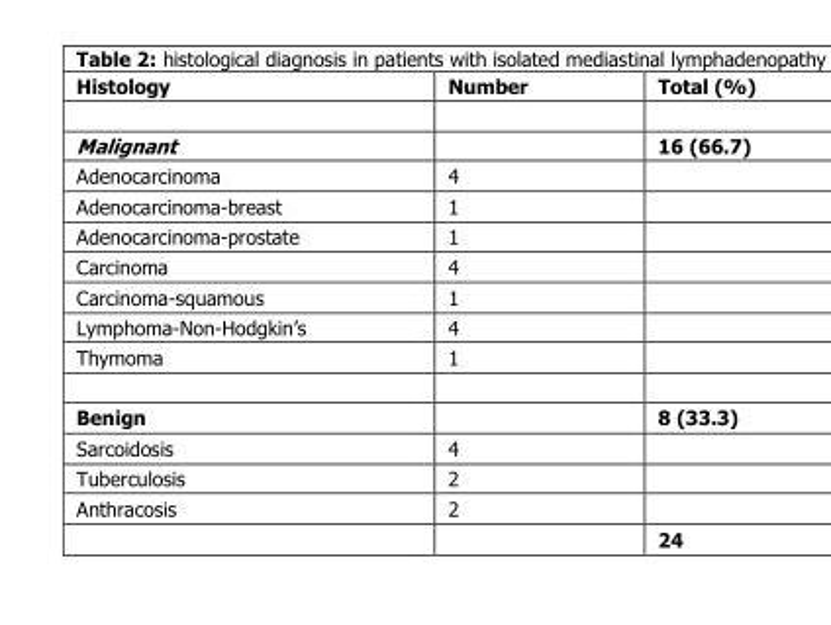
<table><thead><tr><td>Histology</td><td>Number</td><td>Total (%)</td></tr></thead><tbody><tr><td>Malignant</td><td></td><td>16 (66.7)</td></tr><tr><td>Adenocarcinoma</td><td>4</td><td></td></tr><tr><td>Adenocarcinoma-breast</td><td>1</td><td></td></tr><tr><td>Adenocarcinoma-prostate</td><td>1</td><td></td></tr><tr><td>Carcinoma</td><td>4</td><td></td></tr><tr><td>Carcinoma-squamous</td><td>1</td><td></td></tr><tr><td>Lymphoma-Non-Hodgkin’s</td><td>4</td><td></td></tr><tr><td>Thymoma</td><td>1</td><td></td></tr><tr><td>Benign</td><td></td><td>8 (33.3)</td></tr><tr><td>Sarcoidosis</td><td>4</td><td></td></tr><tr><td>Tuberculosis</td><td>2</td><td></td></tr><tr><td rowspan="2">Anthracosis</td><td>2</td><td></td></tr><tr><td></td><td>24</td></tr></tbody></table>